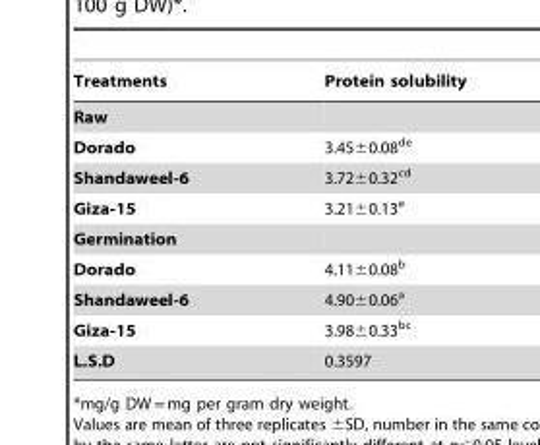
<table><thead><tr><td>Treatments</td><td>Protein solubility</td></tr></thead><tbody><tr><td colspan="2">Raw</td></tr><tr><td>Dorado</td><td>3.45±0.08<sup>de</sup></td></tr><tr><td>Shandaweel-6</td><td>3.72±0.32<sup>cd</sup></td></tr><tr><td>Giza-15</td><td>3.21±0.13<sup>e</sup></td></tr><tr><td colspan="2">Germination</td></tr><tr><td>Dorado</td><td>4.11±0.08<sup>b</sup></td></tr><tr><td>Shandaweel-6</td><td>4.90±0.06<sup>a</sup></td></tr><tr><td>Giza-15</td><td>3.98±0.33<sup>bc</sup></td></tr><tr><td>L.S.D</td><td>0.3597</td></tr></tbody></table>